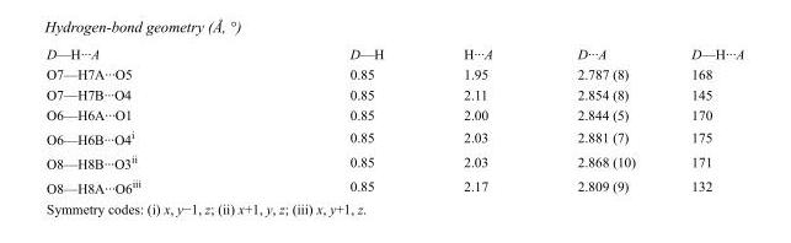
<table><tbody><tr><td>D—H···A</td><td>D—H</td><td>H···A</td><td>D···A</td><td>D—H···A</td></tr><tr><td>O7—H7A···O5</td><td>0.85</td><td>1.95</td><td>2.787 (8)</td><td>168</td></tr><tr><td>O7—H7B···O4</td><td>0.85</td><td>2.11</td><td>2.854 (8)</td><td>145</td></tr><tr><td>O6—H6A···O1</td><td>0.85</td><td>2.00</td><td>2.844 (5)</td><td>170</td></tr><tr><td>O6—H6B···O4<sup>i</sup></td><td>0.85</td><td>2.03</td><td>2.881 (7)</td><td>175</td></tr><tr><td>O8—H8B···O3<sup>ii</sup></td><td>0.85</td><td>2.03</td><td>2.868 (10)</td><td>171</td></tr><tr><td>O8—H8A···O6<sup>iii</sup></td><td>0.85</td><td>2.17</td><td>2.809 (9)</td><td>132</td></tr></tbody></table>